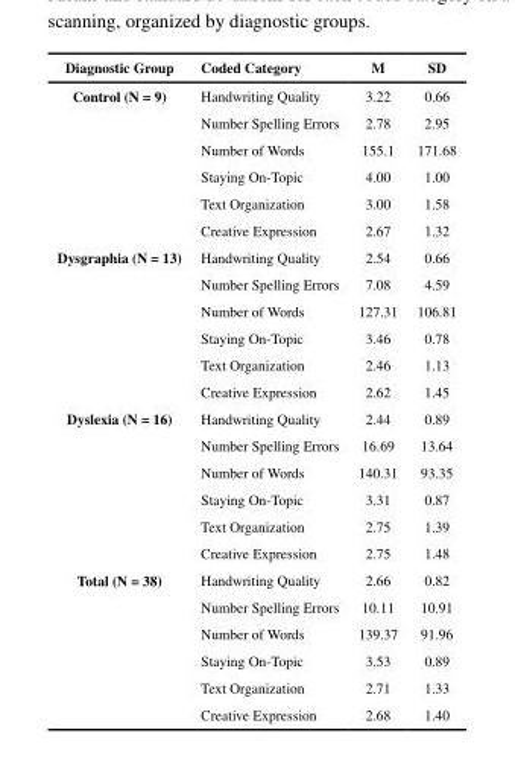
<table><thead><tr><td>Diagnostic Group</td><td>Coded Category</td><td>M</td><td>SD</td></tr></thead><tbody><tr><td rowspan="6">Control (N = 9)</td><td>Handwriting Quality</td><td>3.22</td><td>0.66</td></tr><tr><td>Number Spelling Errors</td><td>2.78</td><td>2.95</td></tr><tr><td>Number of Words</td><td>155.1</td><td>171.68</td></tr><tr><td>Staying On-Topic</td><td>4.00</td><td>1.00</td></tr><tr><td>Text Organization</td><td>3.00</td><td>1.58</td></tr><tr><td>Creative Expression</td><td>2.67</td><td>1.32</td></tr><tr><td rowspan="6">Dysgraphia (N = 13)</td><td>Handwriting Quality</td><td>2.54</td><td>0.66</td></tr><tr><td>Number Spelling Errors</td><td>7.08</td><td>4.59</td></tr><tr><td>Number of Words</td><td>127.31</td><td>106.81</td></tr><tr><td>Staying On-Topic</td><td>3.46</td><td>0.78</td></tr><tr><td>Text Organization</td><td>2.46</td><td>1.13</td></tr><tr><td>Creative Expression</td><td>2.62</td><td>1.45</td></tr><tr><td rowspan="6">Dyslexia (N = 16)</td><td>Handwriting Quality</td><td>2.44</td><td>0.89</td></tr><tr><td>Number Spelling Errors</td><td>16.69</td><td>13.64</td></tr><tr><td>Number of Words</td><td>140.31</td><td>93.35</td></tr><tr><td>Staying On-Topic</td><td>3.31</td><td>0.87</td></tr><tr><td>Text Organization</td><td>2.75</td><td>1.39</td></tr><tr><td>Creative Expression</td><td>2.75</td><td>1.48</td></tr><tr><td rowspan="6">Total (N = 38)</td><td>Handwriting Quality</td><td>2.66</td><td>0.82</td></tr><tr><td>Number Spelling Errors</td><td>10.11</td><td>10.91</td></tr><tr><td>Number of Words</td><td>139.37</td><td>91.96</td></tr><tr><td>Staying On-Topic</td><td>3.53</td><td>0.89</td></tr><tr><td>Text Organization</td><td>2.71</td><td>1.33</td></tr><tr><td>Creative Expression</td><td>2.68</td><td>1.40</td></tr></tbody></table>